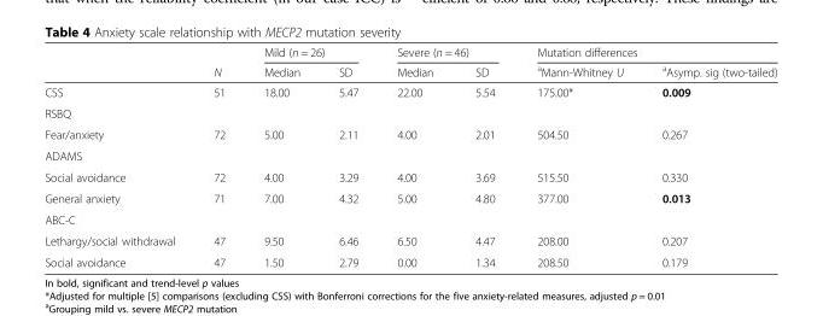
<table><thead><tr><td rowspan="2"></td><td rowspan="2">N</td><td colspan="2">Mild (n = 26)</td><td colspan="2">Severe (n = 46)</td><td colspan="2">Mutation differences</td></tr><tr><td>Median</td><td>SD</td><td>Median</td><td>SD</td><td><sup>a</sup>Mann-Whitney U</td><td><sup>a</sup>Asymp. sig (two-tailed)</td></tr></thead><tbody><tr><td>CSS</td><td>51</td><td>18.00</td><td>5.47</td><td>22.00</td><td>5.54</td><td>175.00*</td><td>0.009</td></tr><tr><td colspan="8">RSBQ</td></tr><tr><td>Fear/anxiety</td><td>72</td><td>5.00</td><td>2.11</td><td>4.00</td><td>2.01</td><td>504.50</td><td>0.267</td></tr><tr><td colspan="8">ADAMS</td></tr><tr><td>Social avoidance</td><td>72</td><td>4.00</td><td>3.29</td><td>4.00</td><td>3.69</td><td>515.50</td><td>0.330</td></tr><tr><td>General anxiety</td><td>71</td><td>7.00</td><td>4.32</td><td>5.00</td><td>4.80</td><td>377.00</td><td>0.013</td></tr><tr><td colspan="8">ABC-C</td></tr><tr><td>Lethargy/social withdrawal</td><td>47</td><td>9.50</td><td>6.46</td><td>6.50</td><td>4.47</td><td>208.00</td><td>0.207</td></tr><tr><td>Social avoidance</td><td>47</td><td>1.50</td><td>2.79</td><td>0.00</td><td>1.34</td><td>208.50</td><td>0.179</td></tr></tbody></table>